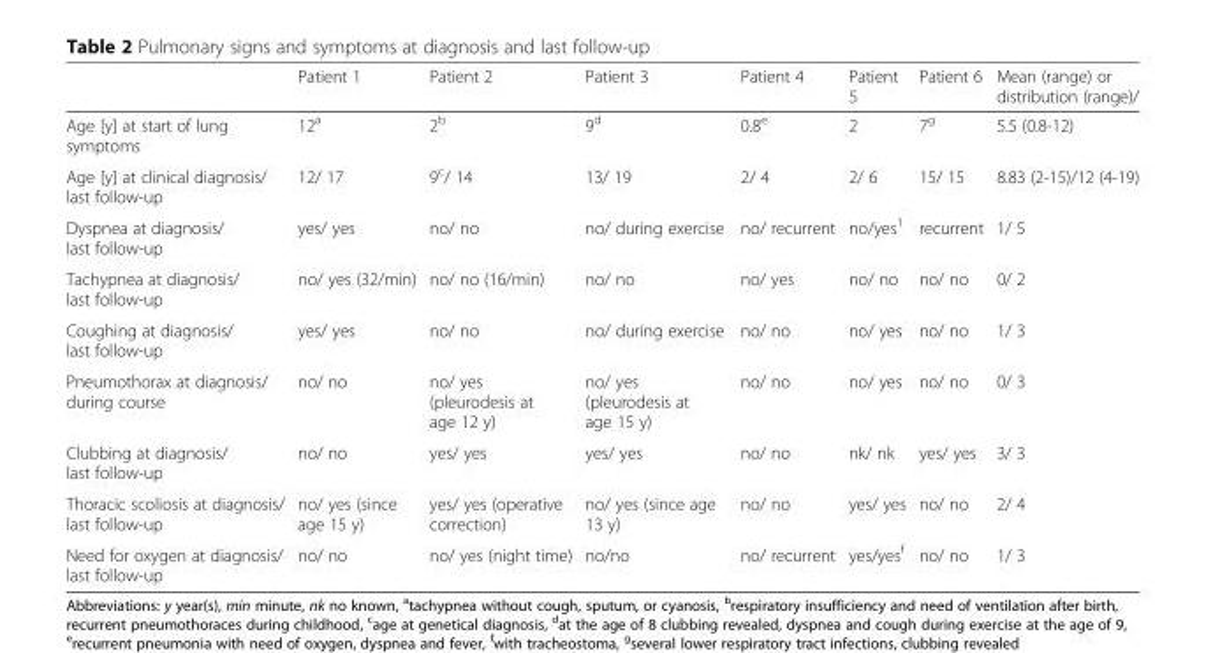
<table><thead><tr><td></td><td>Patient 1</td><td>Patient 2</td><td>Patient 3</td><td>Patient 4</td><td>Patient 5</td><td>Patient 6</td><td>Mean (range) or distribution (range)/</td></tr></thead><tbody><tr><td>Age [y] at start of lung symptoms</td><td>12<sup>a</sup></td><td>2<sup>b</sup></td><td>9<sup>d</sup></td><td>0.8<sup>e</sup></td><td>2</td><td>7<sup>g</sup></td><td>5.5 (0.8-12)</td></tr><tr><td>Age [y] at clinical diagnosis/ last follow-up</td><td>12/ 17</td><td>9<sup>c</sup>/ 14</td><td>13/ 19</td><td>2/ 4</td><td>2/ 6</td><td>15/ 15</td><td>8.83 (2-15)/12 (4-19)</td></tr><tr><td>Dyspnea at diagnosis/ last follow-up</td><td>yes/ yes</td><td>no/ no</td><td>no/ during exercise</td><td>no/ recurrent</td><td>no/yes<sup>1</sup></td><td>recurrent</td><td>1/ 5</td></tr><tr><td>Tachypnea at diagnosis/ last follow-up</td><td>no/ yes (32/min)</td><td>no/ no (16/min)</td><td>no/ no</td><td>no/ yes</td><td>no/ no</td><td>no/ no</td><td>0/ 2</td></tr><tr><td>Coughing at diagnosis/ last follow-up</td><td>yes/ yes</td><td>no/ no</td><td>no/ during exercise</td><td>no/ no</td><td>no/ yes</td><td>no/ no</td><td>1/ 3</td></tr><tr><td>Pneumothorax at diagnosis/ during course</td><td>no/ no</td><td>no/ yes (pleurodesis at age 12 y)</td><td>no/ yes (pleurodesis at age 15 y)</td><td>no/ no</td><td>no/ yes</td><td>no/ no</td><td>0/ 3</td></tr><tr><td>Clubbing at diagnosis/ last follow-up</td><td>no/ no</td><td>yes/ yes</td><td>yes/ yes</td><td>no/ no</td><td>nk/ nk</td><td>yes/ yes</td><td>3/ 3</td></tr><tr><td>Thoracic scoliosis at diagnosis/ last follow-up</td><td>no/ yes (since age 15 y)</td><td>yes/ yes (operative correction)</td><td>no/ yes (since age 13 y)</td><td>no/ no</td><td>yes/ yes</td><td>no/ no</td><td>2/ 4</td></tr><tr><td>Need for oxygen at diagnosis/ last follow-up</td><td>no/ no</td><td>no/ yes (night time)</td><td>no/no</td><td>no/ recurrent</td><td>yes/yes<sup>f</sup></td><td>no/ no</td><td>1/ 3</td></tr></tbody></table>